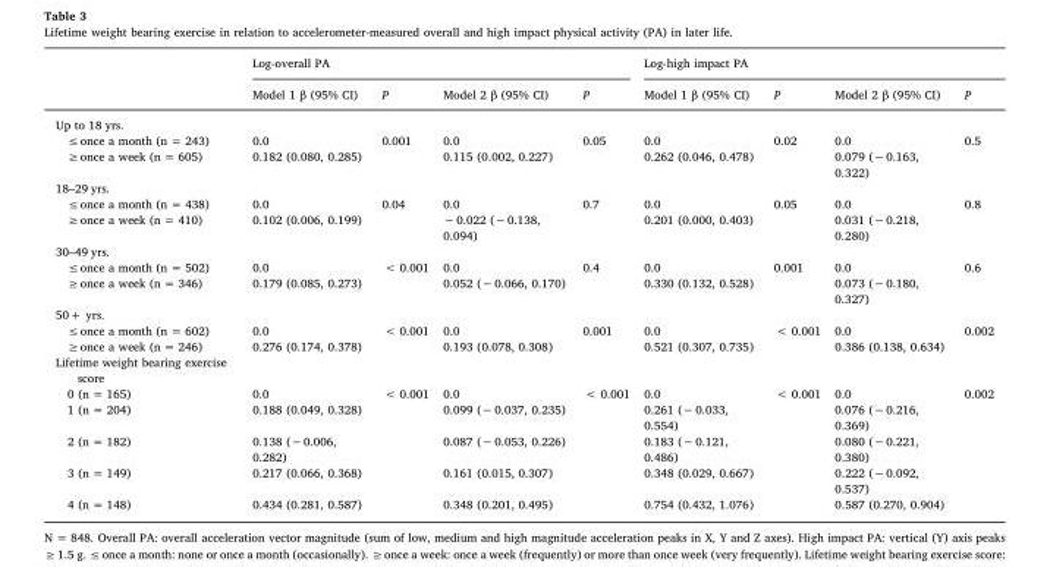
<table><thead><tr><td rowspan="2"></td><td colspan="4">Log-overall PA</td><td colspan="4">Log-high impact PA</td></tr><tr><td>Model 1 β (95% CI)</td><td>P</td><td>Model 2 β (95% CI)</td><td>P</td><td>Model 1 β (95% CI)</td><td>P</td><td>Model 2 β (95% CI)</td><td>P</td></tr></thead><tbody><tr><td colspan="9">Up to 18 yrs.</td></tr><tr><td>≤once a month (n = 243)</td><td>0.0</td><td>0.001</td><td>0.0</td><td>0.05</td><td>0.0</td><td>0.02</td><td>0.0</td><td>0.5</td></tr><tr><td>≥once a week (n = 605)</td><td>0.182 (0.080, 0.285)</td><td></td><td>0.115 (0.002, 0.227)</td><td></td><td>0.262 (0.046, 0.478)</td><td></td><td>0.079 (−0.163, 0.322)</td><td></td></tr><tr><td colspan="9">18–29 yrs.</td></tr><tr><td>≤once a month (n = 438)</td><td>0.0</td><td>0.04</td><td>0.0</td><td>0.7</td><td>0.0</td><td>0.05</td><td>0.0</td><td>0.8</td></tr><tr><td>≥once a week (n = 410)</td><td>0.102 (0.006, 0.199)</td><td></td><td>−0.022 (−0.138, 0.094)</td><td></td><td>0.201 (0.000, 0.403)</td><td></td><td>0.031 (−0.218, 0.280)</td><td></td></tr><tr><td colspan="9">30–49 yrs.</td></tr><tr><td>≤once a month (n = 502)</td><td>0.0</td><td>&lt; 0.001</td><td>0.0</td><td>0.4</td><td>0.0</td><td>0.001</td><td>0.0</td><td>0.6</td></tr><tr><td>≥once a week (n = 346)</td><td>0.179 (0.085, 0.273)</td><td></td><td>0.052 (−0.066, 0.170)</td><td></td><td>0.330 (0.132, 0.528)</td><td></td><td>0.073 (−0.180, 0.327)</td><td></td></tr><tr><td colspan="9">50+ yrs.</td></tr><tr><td>≤once a month (n = 602)</td><td>0.0</td><td>&lt; 0.001</td><td>0.0</td><td>0.001</td><td>0.0</td><td>&lt; 0.001</td><td>0.0</td><td>0.002</td></tr><tr><td>≥once a week (n = 246)</td><td>0.276 (0.174, 0.378)</td><td></td><td>0.193 (0.078, 0.308)</td><td></td><td>0.521 (0.307, 0.735)</td><td></td><td>0.386 (0.138, 0.634)</td><td></td></tr><tr><td colspan="9">Lifetime weight bearing exercise score</td></tr><tr><td>0 (n = 165)</td><td>0.0</td><td>&lt; 0.001</td><td>0.0</td><td>&lt; 0.001</td><td>0.0</td><td>&lt; 0.001</td><td>0.0</td><td>0.002</td></tr><tr><td>1 (n = 204)</td><td>0.188 (0.049, 0.328)</td><td></td><td>0.099 (−0.037, 0.235)</td><td></td><td>0.261 (−0.033, 0.554)</td><td></td><td>0.076 (−0.216, 0.369)</td><td></td></tr><tr><td>2 (n = 182)</td><td>0.138 (−0.006, 0.282)</td><td></td><td>0.087 (−0.053, 0.226)</td><td></td><td>0.183 (−0.121, 0.486)</td><td></td><td>0.080 (−0.221, 0.380)</td><td></td></tr><tr><td>3 (n = 149)</td><td>0.217 (0.066, 0.368)</td><td></td><td>0.161 (0.015, 0.307)</td><td></td><td>0.348 (0.029, 0.667)</td><td></td><td>0.222 (−0.092, 0.537)</td><td></td></tr><tr><td>4 (n = 148)</td><td>0.434 (0.281, 0.587)</td><td></td><td>0.348 (0.201, 0.495)</td><td></td><td>0.754 (0.432, 1.076)</td><td></td><td>0.587 (0.270, 0.904)</td><td></td></tr></tbody></table>